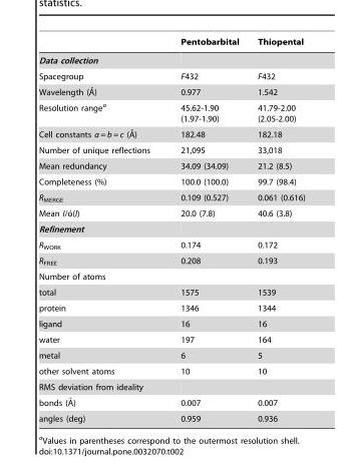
<table><thead><tr><td></td><td>Pentobarbital</td><td>Thiopental</td></tr></thead><tbody><tr><td colspan="3">Data collection</td></tr><tr><td>Spacegroup</td><td>F432</td><td>F432</td></tr><tr><td>Wavelength (A˚)</td><td>0.977</td><td>1.542</td></tr><tr><td>Resolution range<sup>a</sup></td><td>45.62-1.90 (1.97-1.90)</td><td>41.79-2.00 (2.05-2.00)</td></tr><tr><td>Cell constants a = b = c (A˚)</td><td>182.48</td><td>182.18</td></tr><tr><td>Number of unique reflections</td><td>21,095</td><td>33,018</td></tr><tr><td>Mean redundancy</td><td>34.09 (34.09)</td><td>21.2 (8.5)</td></tr><tr><td>Completeness (%)</td><td>100.0 (100.0)</td><td>99.7 (98.4)</td></tr><tr><td>R<sub>MERGE</sub></td><td>0.109 (0.527)</td><td>0.061 (0.616)</td></tr><tr><td>Mean I/o´(I)</td><td>20.0 (7.8)</td><td>40.6 (3.8)</td></tr><tr><td colspan="3">Refinement</td></tr><tr><td>R<sub>WORK</sub></td><td>0.174</td><td>0.172</td></tr><tr><td>R<sub>FREE</sub></td><td>0.208</td><td>0.193</td></tr><tr><td colspan="3">Number of atoms</td></tr><tr><td>total</td><td>1575</td><td>1539</td></tr><tr><td>protein</td><td>1346</td><td>1344</td></tr><tr><td>ligand</td><td>16</td><td>16</td></tr><tr><td>water</td><td>197</td><td>164</td></tr><tr><td>metal</td><td>6</td><td>5</td></tr><tr><td>other solvent atoms</td><td>10</td><td>10</td></tr><tr><td colspan="3">RMS deviation from ideality</td></tr><tr><td>bonds (A˚)</td><td>0.007</td><td>0.007</td></tr><tr><td>angles (deg)</td><td>0.959</td><td>0.936</td></tr></tbody></table>